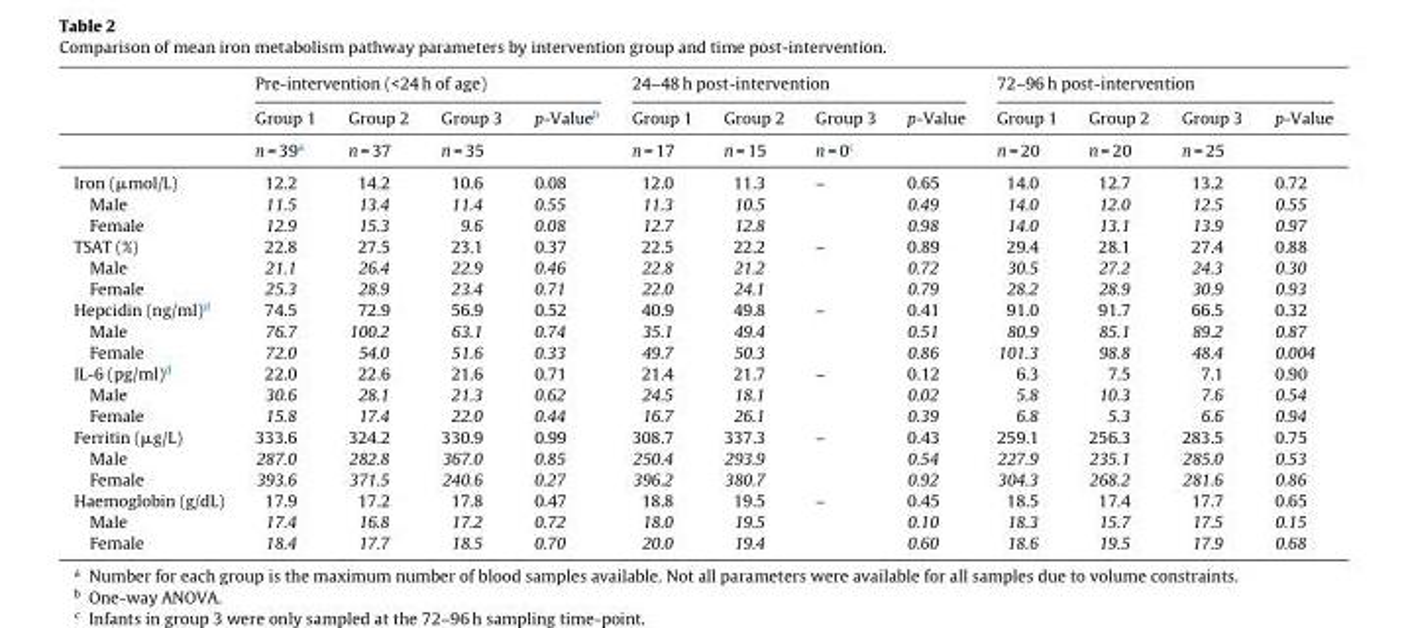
<table><thead><tr><td rowspan="3"></td><td colspan="4">Pre-intervention (&lt;24 h of age)</td><td colspan="4">24–48 h post-intervention</td><td colspan="4">72–96 h post-intervention</td></tr><tr><td rowspan="2">Group 1 n = 39<sup>a</sup></td><td rowspan="2">Group 2 n = 37</td><td rowspan="2">Group 3 n = 35</td><td rowspan="2">p-Value<sup>b</sup></td><td rowspan="2">Group 1 n = 17</td><td rowspan="2">Group 2 n = 15</td><td rowspan="2">Group 3 n = 0<sup>c</sup></td><td rowspan="2">p-Value</td><td rowspan="2">Group 1 n = 20</td><td rowspan="2">Group 2 n = 20</td><td rowspan="2">Group 3 n = 25</td><td rowspan="2">p-Value</td></tr><tr></tr></thead><tbody><tr><td>Iron (μmol/L)</td><td>12.2</td><td>14.2</td><td>10.6</td><td>0.08</td><td>12.0</td><td>11.3</td><td>–</td><td>0.65</td><td>14.0</td><td>12.7</td><td>13.2</td><td>0.72</td></tr><tr><td>Male</td><td>11.5</td><td>13.4</td><td>11.4</td><td>0.55</td><td>11.3</td><td>10.5</td><td></td><td>0.49</td><td>14.0</td><td>12.0</td><td>12.5</td><td>0.55</td></tr><tr><td>Female</td><td>12.9</td><td>15.3</td><td>9.6</td><td>0.08</td><td>12.7</td><td>12.8</td><td></td><td>0.98</td><td>14.0</td><td>13.1</td><td>13.9</td><td>0.97</td></tr><tr><td>TSAT (%)</td><td>22.8</td><td>27.5</td><td>23.1</td><td>0.37</td><td>22.5</td><td>22.2</td><td>–</td><td>0.89</td><td>29.4</td><td>28.1</td><td>27.4</td><td>0.88</td></tr><tr><td>Male</td><td>21.1</td><td>26.4</td><td>22.9</td><td>0.46</td><td>22.8</td><td>21.2</td><td></td><td>0.72</td><td>30.5</td><td>27.2</td><td>24.3</td><td>0.30</td></tr><tr><td>Female</td><td>25.3</td><td>28.9</td><td>23.4</td><td>0.71</td><td>22.0</td><td>24.1</td><td></td><td>0.79</td><td>28.2</td><td>28.9</td><td>30.9</td><td>0.93</td></tr><tr><td>Hepcidin (ng/ml)<sup>d</sup></td><td>74.5</td><td>72.9</td><td>56.9</td><td>0.52</td><td>40.9</td><td>49.8</td><td>–</td><td>0.41</td><td>91.0</td><td>91.7</td><td>66.5</td><td>0.32</td></tr><tr><td>Male</td><td>76.7</td><td>100.2</td><td>63.1</td><td>0.74</td><td>35.1</td><td>49.4</td><td></td><td>0.51</td><td>80.9</td><td>85.1</td><td>89.2</td><td>0.87</td></tr><tr><td>Female</td><td>72.0</td><td>54.0</td><td>51.6</td><td>0.33</td><td>49.7</td><td>50.3</td><td></td><td>0.86</td><td>101.3</td><td>98.8</td><td>48.4</td><td>0.004</td></tr><tr><td>IL-6 (pg/ml)<sup>d</sup></td><td>22.0</td><td>22.6</td><td>21.6</td><td>0.71</td><td>21.4</td><td>21.7</td><td>–</td><td>0.12</td><td>6.3</td><td>7.5</td><td>7.1</td><td>0.90</td></tr><tr><td>Male</td><td>30.6</td><td>28.1</td><td>21.3</td><td>0.62</td><td>24.5</td><td>18.1</td><td></td><td>0.02</td><td>5.8</td><td>10.3</td><td>7.6</td><td>0.54</td></tr><tr><td>Female</td><td>15.8</td><td>17.4</td><td>22.0</td><td>0.44</td><td>16.7</td><td>26.1</td><td></td><td>0.39</td><td>6.8</td><td>5.3</td><td>6.6</td><td>0.94</td></tr><tr><td>Ferritin (μg/L)</td><td>333.6</td><td>324.2</td><td>330.9</td><td>0.99</td><td>308.7</td><td>337.3</td><td>–</td><td>0.43</td><td>259.1</td><td>256.3</td><td>283.5</td><td>0.75</td></tr><tr><td>Male</td><td>287.0</td><td>282.8</td><td>367.0</td><td>0.85</td><td>250.4</td><td>293.9</td><td></td><td>0.54</td><td>227.9</td><td>235.1</td><td>285.0</td><td>0.53</td></tr><tr><td>Female</td><td>393.6</td><td>371.5</td><td>240.6</td><td>0.27</td><td>396.2</td><td>380.7</td><td></td><td>0.92</td><td>304.3</td><td>268.2</td><td>281.6</td><td>0.86</td></tr><tr><td>Haemoglobin (g/dL)</td><td>17.9</td><td>17.2</td><td>17.8</td><td>0.47</td><td>18.8</td><td>19.5</td><td>–</td><td>0.45</td><td>18.5</td><td>17.4</td><td>17.7</td><td>0.65</td></tr><tr><td>Male</td><td>17.4</td><td>16.8</td><td>17.2</td><td>0.72</td><td>18.0</td><td>19.5</td><td></td><td>0.10</td><td>18.3</td><td>15.7</td><td>17.5</td><td>0.15</td></tr><tr><td>Female</td><td>18.4</td><td>17.7</td><td>18.5</td><td>0.70</td><td>20.0</td><td>19.4</td><td></td><td>0.60</td><td>18.6</td><td>19.5</td><td>17.9</td><td>0.68</td></tr></tbody></table>